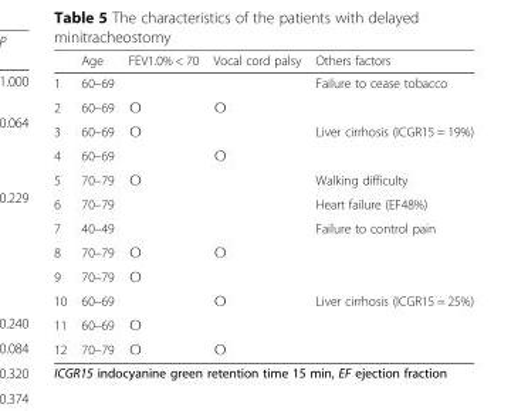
<table><thead><tr><td></td><td>Age</td><td>FEV1.0% &lt; 70</td><td>Vocal cord palsy</td><td>Others factors</td></tr></thead><tbody><tr><td>1</td><td>60–69</td><td></td><td></td><td>Failure to cease tobacco</td></tr><tr><td>2</td><td>60–69</td><td>〇</td><td>〇</td><td></td></tr><tr><td>3</td><td>60–69</td><td>〇</td><td></td><td>Liver cirrhosis (ICGR15 = 19%)</td></tr><tr><td>4</td><td>60–69</td><td></td><td>〇</td><td></td></tr><tr><td>5</td><td>70–79</td><td>〇</td><td></td><td>Walking difficulty</td></tr><tr><td>6</td><td>70–79</td><td></td><td></td><td>Heart failure (EF48%)</td></tr><tr><td>7</td><td>40–49</td><td></td><td></td><td>Failure to control pain</td></tr><tr><td>8</td><td>70–79</td><td>〇</td><td>〇</td><td></td></tr><tr><td>9</td><td>70–79</td><td>〇</td><td></td><td></td></tr><tr><td>10</td><td>60–69</td><td></td><td>〇</td><td>Liver cirrhosis (ICGR15 = 25%)</td></tr><tr><td>11</td><td>60–69</td><td>〇</td><td></td><td></td></tr><tr><td>12</td><td>70–79</td><td>〇</td><td>〇</td><td></td></tr></tbody></table>